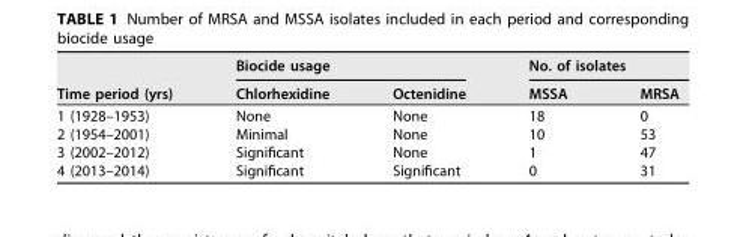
<table><thead><tr><td rowspan="2">Time period (yrs)</td><td colspan="2">Biocide usage</td><td colspan="2">No. of isolates</td></tr><tr><td>Chlorhexidine</td><td>Octenidine</td><td>MSSA</td><td>MRSA</td></tr></thead><tbody><tr><td>1 (1928–1953)</td><td>None</td><td>None</td><td>18</td><td>0</td></tr><tr><td>2 (1954–2001)</td><td>Minimal</td><td>None</td><td>10</td><td>53</td></tr><tr><td>3 (2002–2012)</td><td>Significant</td><td>None</td><td>1</td><td>47</td></tr><tr><td>4 (2013–2014)</td><td>Significant</td><td>Significant</td><td>0</td><td>31</td></tr></tbody></table>